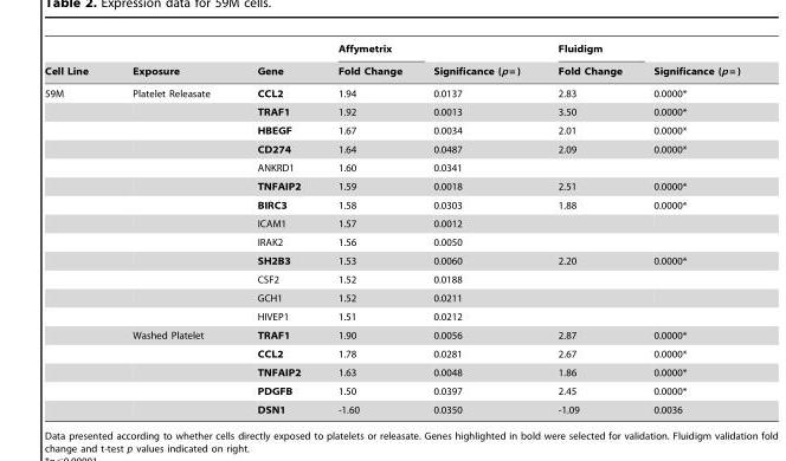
<table><thead><tr><td rowspan="2">Cell Line</td><td rowspan="2">Exposure</td><td rowspan="2">Gene</td><td rowspan="2">Affymetrix Fold Change</td><td rowspan="2">Significance (p = )</td><td rowspan="2">Fluidigm Fold Change</td><td rowspan="2">Significance (p = )</td></tr><tr></tr></thead><tbody><tr><td rowspan="18">59M</td><td>Platelet Releasate</td><td>CCL2</td><td>1.94</td><td>0.0137</td><td>2.83</td><td>0.0000*</td></tr><tr><td></td><td>TRAF1</td><td>1.92</td><td>0.0013</td><td>3.50</td><td>0.0000*</td></tr><tr><td></td><td>HBEGF</td><td>1.67</td><td>0.0034</td><td>2.01</td><td>0.0000*</td></tr><tr><td></td><td>CD274</td><td>1.64</td><td>0.0487</td><td>2.09</td><td>0.0000*</td></tr><tr><td></td><td>ANKRD1</td><td>1.60</td><td>0.0341</td><td></td><td></td></tr><tr><td></td><td>TNFAIP2</td><td>1.59</td><td>0.0018</td><td>2.51</td><td>0.0000*</td></tr><tr><td></td><td>BIRC3</td><td>1.58</td><td>0.0303</td><td>1.88</td><td>0.0000*</td></tr><tr><td></td><td>ICAM1</td><td>1.57</td><td>0.0012</td><td></td><td></td></tr><tr><td></td><td>IRAK2</td><td>1.56</td><td>0.0050</td><td></td><td></td></tr><tr><td></td><td>SH2B3</td><td>1.53</td><td>0.0060</td><td>2.20</td><td>0.0000*</td></tr><tr><td></td><td>CSF2</td><td>1.52</td><td>0.0188</td><td></td><td></td></tr><tr><td></td><td>GCH1</td><td>1.52</td><td>0.0211</td><td></td><td></td></tr><tr><td></td><td>HIVEP1</td><td>1.51</td><td>0.0212</td><td></td><td></td></tr><tr><td>Washed Platelet</td><td>TRAF1</td><td>1.90</td><td>0.0056</td><td>2.87</td><td>0.0000*</td></tr><tr><td></td><td>CCL2</td><td>1.78</td><td>0.0281</td><td>2.67</td><td>0.0000*</td></tr><tr><td></td><td>TNFAIP2</td><td>1.63</td><td>0.0048</td><td>1.86</td><td>0.0000*</td></tr><tr><td></td><td>PDGFB</td><td>1.50</td><td>0.0397</td><td>2.45</td><td>0.0000*</td></tr><tr><td></td><td>DSN1</td><td>-1.60</td><td>0.0350</td><td>-1.09</td><td>0.0036</td></tr></tbody></table>